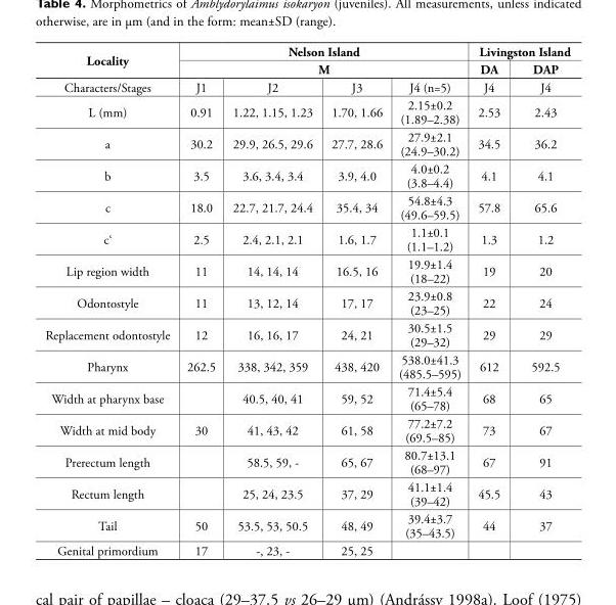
<table><thead><tr><td rowspan="3">Locality Characters/Stages</td><td rowspan="2" colspan="4">Nelson Island M</td><td colspan="2">Livingston Island</td></tr><tr><td rowspan="2">DA J4</td><td rowspan="2">DAP J4</td></tr><tr><td>J1</td><td>J2</td><td>J3</td><td>J4 (n=5)</td></tr></thead><tbody><tr><td>L (mm)</td><td>0.91</td><td>1.22, 1.15, 1.23</td><td>1.70, 1.66</td><td>2.15±0.2 (1.89–2.38)</td><td>2.53</td><td>2.43</td></tr><tr><td>a</td><td>30.2</td><td>29.9, 26.5, 29.6</td><td>27.7, 28.6</td><td>27.9±2.1 (24.9–30.2)</td><td>34.5</td><td>36.2</td></tr><tr><td>b</td><td>3.5</td><td>3.6, 3.4, 3.4</td><td>3.9, 4.0</td><td>4.0±0.2 (3.8–4.4)</td><td>4.1</td><td>4.1</td></tr><tr><td>c</td><td>18.0</td><td>22.7, 21.7, 24.4</td><td>35.4, 34</td><td>54.8±4.3 (49.6–59.5)</td><td>57.8</td><td>65.6</td></tr><tr><td>c‘</td><td>2.5</td><td>2.4, 2.1, 2.1</td><td>1.6, 1.7</td><td>1.1±0.1 (1.1–1.2)</td><td>1.3</td><td>1.2</td></tr><tr><td>Lip region width</td><td>11</td><td>14, 14, 14</td><td>16.5, 16</td><td>19.9±1.4 (18–22)</td><td>19</td><td>20</td></tr><tr><td>Odontostyle</td><td>11</td><td>13, 12, 14</td><td>17, 17</td><td>23.9±0.8 (23–25)</td><td>22</td><td>24</td></tr><tr><td>Replacement odontostyle</td><td>12</td><td>16, 16, 17</td><td>24, 21</td><td>30.5±1.5 (29–32)</td><td>29</td><td>29</td></tr><tr><td>Pharynx</td><td>262.5</td><td>338, 342, 359</td><td>438, 420</td><td>538.0±41.3 (485.5–595)</td><td>612</td><td>592.5</td></tr><tr><td>Width at pharynx base</td><td></td><td>40.5, 40, 41</td><td>59, 52</td><td>71.4±5.4 (65–78)</td><td>68</td><td>65</td></tr><tr><td>Width at mid body</td><td>30</td><td>41, 43, 42</td><td>61, 58</td><td>77.2±7.2 (69.5–85)</td><td>73</td><td>67</td></tr><tr><td>Prerectum length</td><td></td><td>58.5, 59, -</td><td>65, 67</td><td>80.7±13.1 (68–97)</td><td>67</td><td>91</td></tr><tr><td>Rectum length</td><td></td><td>25, 24, 23.5</td><td>37, 29</td><td>41.1±1.4 (39–42)</td><td>45.5</td><td>43</td></tr><tr><td>Tail</td><td>50</td><td>53.5, 53, 50.5</td><td>48, 49</td><td>39.4±3.7 (35–43.5)</td><td>44</td><td>37</td></tr><tr><td>Genital primordium</td><td>17</td><td>-, 23, -</td><td>25, 25</td><td></td><td></td><td></td></tr></tbody></table>